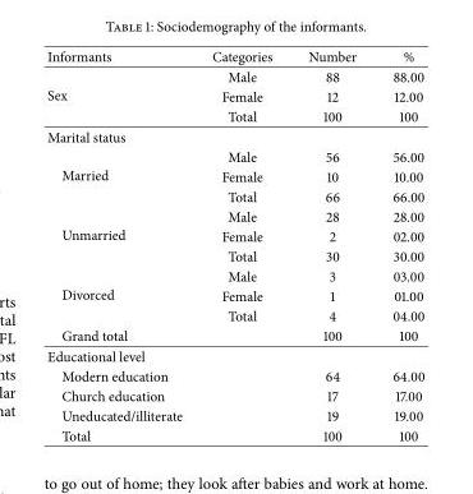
<table><thead><tr><td>Informants</td><td>Categories</td><td>Number</td><td>%</td></tr></thead><tbody><tr><td rowspan="3">Sex</td><td>Male</td><td>88</td><td>88.00</td></tr><tr><td>Female</td><td>12</td><td>12.00</td></tr><tr><td>Total</td><td>100</td><td>100</td></tr><tr><td colspan="4">Marital status</td></tr><tr><td rowspan="3">Married</td><td>Male</td><td>56</td><td>56.00</td></tr><tr><td>Female</td><td>10</td><td>10.00</td></tr><tr><td>Total</td><td>66</td><td>66.00</td></tr><tr><td rowspan="3">Unmarried</td><td>Male</td><td>28</td><td>28.00</td></tr><tr><td>Female</td><td>2</td><td>02.00</td></tr><tr><td>Total</td><td>30</td><td>30.00</td></tr><tr><td rowspan="3">Divorced</td><td>Male</td><td>3</td><td>03.00</td></tr><tr><td>Female</td><td>1</td><td>01.00</td></tr><tr><td>Total</td><td>4</td><td>04.00</td></tr><tr><td>Grand total</td><td></td><td>100</td><td>100</td></tr><tr><td colspan="4">Educational level</td></tr><tr><td>Modern education</td><td></td><td>64</td><td>64.00</td></tr><tr><td>Church education</td><td></td><td>17</td><td>17.00</td></tr><tr><td>Uneducated/illiterate</td><td></td><td>19</td><td>19.00</td></tr><tr><td>Total</td><td></td><td>100</td><td>100</td></tr></tbody></table>